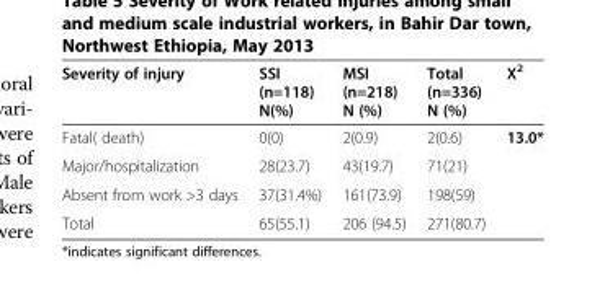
<table><thead><tr><td>Severity of injury</td><td>SSI (n=118) N(%)</td><td>MSI (n=218) N (%)</td><td>Total (n=336) N (%)</td><td>X<sup>2</sup></td></tr></thead><tbody><tr><td>Fatal( death)</td><td>0(0)</td><td>2(0.9)</td><td>2(0.6)</td><td>13.0*</td></tr><tr><td>Major/hospitalization</td><td>28(23.7)</td><td>43(19.7)</td><td>71(21)</td><td></td></tr><tr><td>Absent from work &gt;3 days</td><td>37(31.4%)</td><td>161(73.9)</td><td>198(59)</td><td></td></tr><tr><td>Total</td><td>65(55.1)</td><td>206 (94.5)</td><td>271(80.7)</td><td></td></tr></tbody></table>